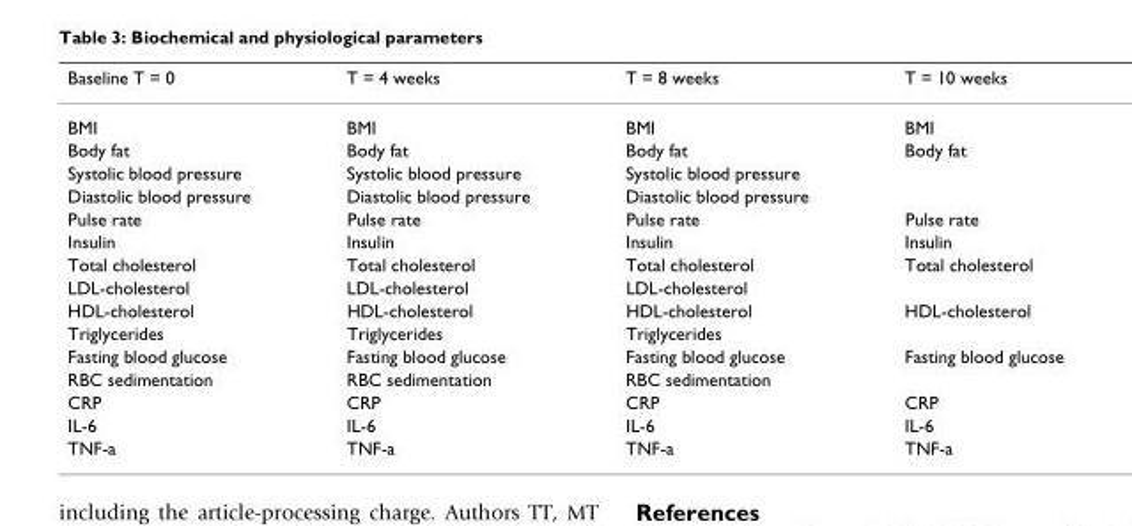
<table><thead><tr><td>Baseline T = 0</td><td>T = 4 weeks</td><td>T = 8 weeks</td><td>T = 10 weeks</td></tr></thead><tbody><tr><td>BMI</td><td>BMI</td><td>BMI</td><td>BMI</td></tr><tr><td>Body fat</td><td>Body fat</td><td>Body fat</td><td>Body fat</td></tr><tr><td>Systolic blood pressure</td><td>Systolic blood pressure</td><td>Systolic blood pressure</td><td></td></tr><tr><td>Diastolic blood pressure</td><td>Diastolic blood pressure</td><td>Diastolic blood pressure</td><td></td></tr><tr><td>Pulse rate</td><td>Pulse rate</td><td>Pulse rate</td><td>Pulse rate</td></tr><tr><td>Insulin</td><td>Insulin</td><td>Insulin</td><td>Insulin</td></tr><tr><td>Total cholesterol</td><td>Total cholesterol</td><td>Total cholesterol</td><td>Total cholesterol</td></tr><tr><td>LDL-cholesterol</td><td>LDL-cholesterol</td><td>LDL-cholesterol</td><td></td></tr><tr><td>HDL-cholesterol</td><td>HDL-cholesterol</td><td>HDL-cholesterol</td><td>HDL-cholesterol</td></tr><tr><td>Triglycerides</td><td>Triglycerides</td><td>Triglycerides</td><td></td></tr><tr><td>Fasting blood glucose</td><td>Fasting blood glucose</td><td>Fasting blood glucose</td><td>Fasting blood glucose</td></tr><tr><td>RBC sedimentation</td><td>RBC sedimentation</td><td>RBC sedimentation</td><td></td></tr><tr><td>CRP</td><td>CRP</td><td>CRP</td><td>CRP</td></tr><tr><td>IL-6</td><td>IL-6</td><td>IL-6</td><td>IL-6</td></tr><tr><td>TNF-a</td><td>TNF-a</td><td>TNF-a</td><td>TNF-a</td></tr></tbody></table>